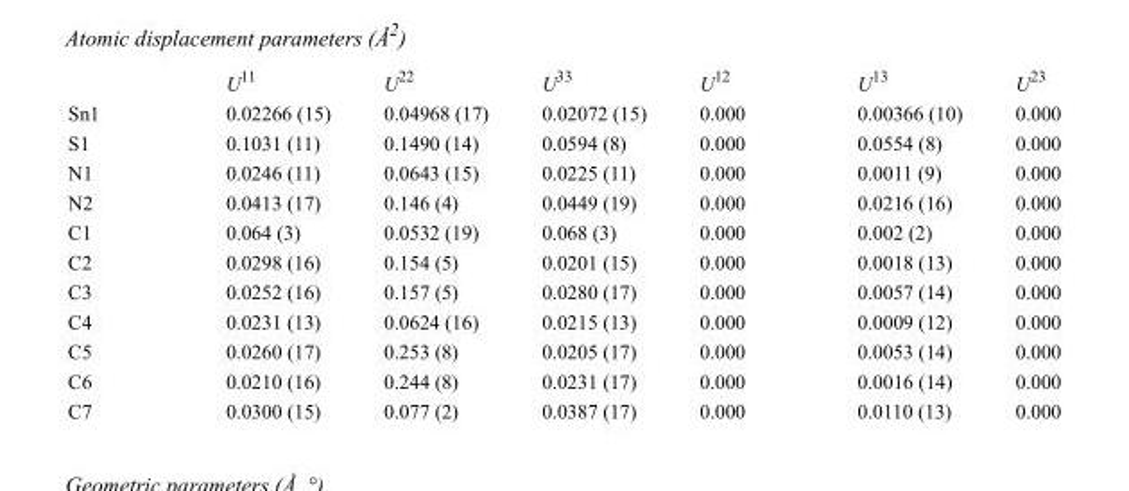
<table><thead><tr><td></td><td>U<sup>11</sup></td><td>U<sup>22</sup></td><td>U<sup>33</sup></td><td>U<sup>12</sup></td><td>U<sup>13</sup></td><td>U<sup>23</sup></td></tr></thead><tbody><tr><td>Sn1</td><td>0.02266 (15)</td><td>0.04968 (17)</td><td>0.02072 (15)</td><td>0.000</td><td>0.00366 (10)</td><td>0.000</td></tr><tr><td>S1</td><td>0.1031 (11)</td><td>0.1490 (14)</td><td>0.0594 (8)</td><td>0.000</td><td>0.0554 (8)</td><td>0.000</td></tr><tr><td>N1</td><td>0.0246 (11)</td><td>0.0643 (15)</td><td>0.0225 (11)</td><td>0.000</td><td>0.0011 (9)</td><td>0.000</td></tr><tr><td>N2</td><td>0.0413 (17)</td><td>0.146 (4)</td><td>0.0449 (19)</td><td>0.000</td><td>0.0216 (16)</td><td>0.000</td></tr><tr><td>C1</td><td>0.064 (3)</td><td>0.0532 (19)</td><td>0.068 (3)</td><td>0.000</td><td>0.002 (2)</td><td>0.000</td></tr><tr><td>C2</td><td>0.0298 (16)</td><td>0.154 (5)</td><td>0.0201 (15)</td><td>0.000</td><td>0.0018 (13)</td><td>0.000</td></tr><tr><td>C3</td><td>0.0252 (16)</td><td>0.157 (5)</td><td>0.0280 (17)</td><td>0.000</td><td>0.0057 (14)</td><td>0.000</td></tr><tr><td>C4</td><td>0.0231 (13)</td><td>0.0624 (16)</td><td>0.0215 (13)</td><td>0.000</td><td>0.0009 (12)</td><td>0.000</td></tr><tr><td>C5</td><td>0.0260 (17)</td><td>0.253 (8)</td><td>0.0205 (17)</td><td>0.000</td><td>0.0053 (14)</td><td>0.000</td></tr><tr><td>C6</td><td>0.0210 (16)</td><td>0.244 (8)</td><td>0.0231 (17)</td><td>0.000</td><td>0.0016 (14)</td><td>0.000</td></tr><tr><td>C7</td><td>0.0300 (15)</td><td>0.077 (2)</td><td>0.0387 (17)</td><td>0.000</td><td>0.0110 (13)</td><td>0.000</td></tr></tbody></table>